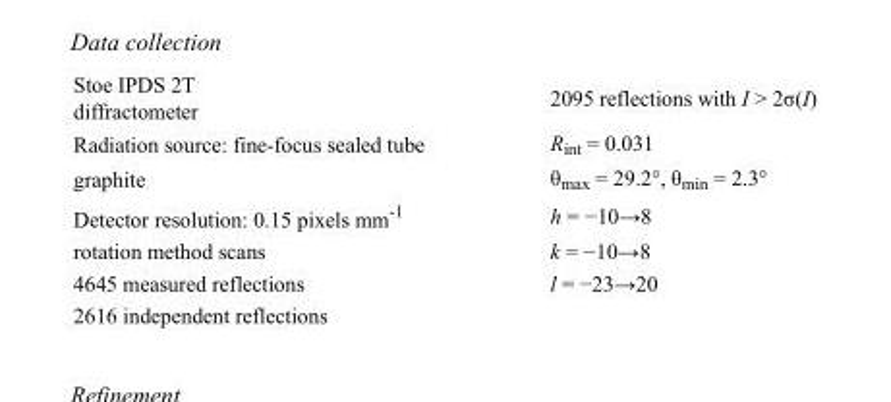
<table><tbody><tr><td>Stoe IPDS 2T diffractometer</td><td>2095 reflections with I &gt; 2σ(I)</td></tr><tr><td>Radiation source: fine-focus sealed tube</td><td>R<sub>int</sub> = 0.031</td></tr><tr><td>graphite</td><td>θ<sub>max</sub> = 29.2°, θ<sub>min</sub> = 2.3°</td></tr><tr><td>Detector resolution: 0.15 pixels mm<sup>-1</sup></td><td>h = −10→8</td></tr><tr><td>rotation method scans</td><td>k = −10→8</td></tr><tr><td>4645 measured reflections</td><td>l = −23→20</td></tr><tr><td>2616 independent reflections</td><td></td></tr></tbody></table>